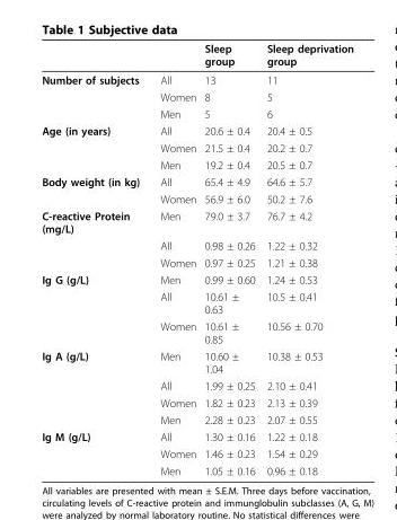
<table><thead><tr><td></td><td></td><td>Sleep group</td><td>Sleep deprivation group</td></tr></thead><tbody><tr><td rowspan="3">Number of subjects</td><td>All</td><td>13</td><td>11</td></tr><tr><td>Women</td><td>8</td><td>5</td></tr><tr><td>Men</td><td>5</td><td>6</td></tr><tr><td rowspan="3">Age (in years)</td><td>All</td><td>20.6 ± 0.4</td><td>20.4 ± 0.5</td></tr><tr><td>Women</td><td>21.5 ± 0.4</td><td>20.2 ± 0.7</td></tr><tr><td>Men</td><td>19.2 ± 0.4</td><td>20.5 ± 0.7</td></tr><tr><td rowspan="2">Body weight (in kg)</td><td>All</td><td>65.4 ± 4.9</td><td>64.6 ± 5.7</td></tr><tr><td>Women</td><td>56.9 ± 6.0</td><td>50.2 ± 7.6</td></tr><tr><td rowspan="3">C-reactive Protein (mg/L)</td><td>Men</td><td>79.0 ± 3.7</td><td>76.7 ± 4.2</td></tr><tr><td>All</td><td>0.98 ± 0.26</td><td>1.22 ± 0.32</td></tr><tr><td>Women</td><td>0.97 ± 0.25</td><td>1.21 ± 0.38</td></tr><tr><td rowspan="3">Ig G (g/L)</td><td>Men</td><td>0.99 ± 0.60</td><td>1.24 ± 0.53</td></tr><tr><td>All</td><td>10.61 ± 0.63</td><td>10.5 ± 0.41</td></tr><tr><td>Women</td><td>10.61 ± 0.85</td><td>10.56 ± 0.70</td></tr><tr><td rowspan="4">Ig A (g/L)</td><td>Men</td><td>10.60 ± 1.04</td><td>10.38 ± 0.53</td></tr><tr><td>All</td><td>1.99 ± 0.25</td><td>2.10 ± 0.41</td></tr><tr><td>Women</td><td>1.82 ± 0.23</td><td>2.13 ± 0.39</td></tr><tr><td>Men</td><td>2.28 ± 0.23</td><td>2.07 ± 0.55</td></tr><tr><td rowspan="3">Ig M (g/L)</td><td>All</td><td>1.30 ± 0.16</td><td>1.22 ± 0.18</td></tr><tr><td>Women</td><td>1.46 ± 0.23</td><td>1.54 ± 0.29</td></tr><tr><td>Men</td><td>1.05 ± 0.16</td><td>0.96 ± 0.18</td></tr></tbody></table>